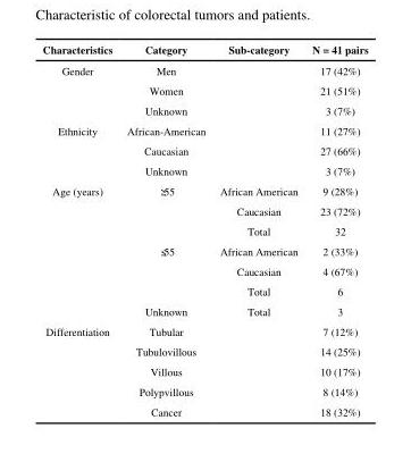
<table><thead><tr><td>Characteristics</td><td>Category</td><td>Sub-category</td><td>N = 41 pairs</td></tr></thead><tbody><tr><td rowspan="3">Gender</td><td>Men</td><td></td><td>17 (42%)</td></tr><tr><td>Women</td><td></td><td>21 (51%)</td></tr><tr><td>Unknown</td><td></td><td>3 (7%)</td></tr><tr><td rowspan="3">Ethnicity</td><td>African-American</td><td></td><td>11 (27%)</td></tr><tr><td>Caucasian</td><td></td><td>27 (66%)</td></tr><tr><td>Unknown</td><td></td><td>3 (7%)</td></tr><tr><td rowspan="7">Age (years)</td><td>≥55</td><td>African American</td><td>9 (28%)</td></tr><tr><td></td><td>Caucasian</td><td>23 (72%)</td></tr><tr><td></td><td>Total</td><td>32</td></tr><tr><td>≤55</td><td>African American</td><td>2 (33%)</td></tr><tr><td></td><td>Caucasian</td><td>4 (67%)</td></tr><tr><td></td><td>Total</td><td>6</td></tr><tr><td>Unknown</td><td>Total</td><td>3</td></tr><tr><td rowspan="5">Differentiation</td><td>Tubular</td><td></td><td>7 (12%)</td></tr><tr><td>Tubulovillous</td><td></td><td>14 (25%)</td></tr><tr><td>Villous</td><td></td><td>10 (17%)</td></tr><tr><td>Polypvillous</td><td></td><td>8 (14%)</td></tr><tr><td>Cancer</td><td></td><td>18 (32%)</td></tr></tbody></table>